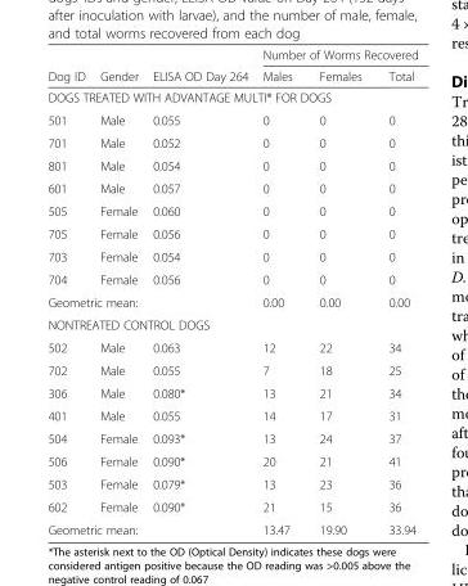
<table><thead><tr><td rowspan="2">Dog ID</td><td rowspan="2">Gender</td><td rowspan="2">ELISA OD Day 264</td><td colspan="3">Number of Worms Recovered</td></tr><tr><td>Males</td><td>Females</td><td>Total</td></tr></thead><tbody><tr><td colspan="6">DOGS TREATED WITH ADVANTAGE MULTI® FOR DOGS</td></tr><tr><td>501</td><td>Male</td><td>0.055</td><td>0</td><td>0</td><td>0</td></tr><tr><td>701</td><td>Male</td><td>0.052</td><td>0</td><td>0</td><td>0</td></tr><tr><td>801</td><td>Male</td><td>0.054</td><td>0</td><td>0</td><td>0</td></tr><tr><td>601</td><td>Male</td><td>0.057</td><td>0</td><td>0</td><td>0</td></tr><tr><td>505</td><td>Female</td><td>0.060</td><td>0</td><td>0</td><td>0</td></tr><tr><td>705</td><td>Female</td><td>0.056</td><td>0</td><td>0</td><td>0</td></tr><tr><td>703</td><td>Female</td><td>0.054</td><td>0</td><td>0</td><td>0</td></tr><tr><td>704</td><td>Female</td><td>0.056</td><td>0</td><td>0</td><td>0</td></tr><tr><td colspan="3">Geometric mean:</td><td>0.00</td><td>0.00</td><td>0.00</td></tr><tr><td colspan="6">NONTREATED CONTROL DOGS</td></tr><tr><td>502</td><td>Male</td><td>0.063</td><td>12</td><td>22</td><td>34</td></tr><tr><td>702</td><td>Male</td><td>0.055</td><td>7</td><td>18</td><td>25</td></tr><tr><td>306</td><td>Male</td><td>0.080*</td><td>13</td><td>21</td><td>34</td></tr><tr><td>401</td><td>Male</td><td>0.055</td><td>14</td><td>17</td><td>31</td></tr><tr><td>504</td><td>Female</td><td>0.093*</td><td>13</td><td>24</td><td>37</td></tr><tr><td>506</td><td>Female</td><td>0.090*</td><td>20</td><td>21</td><td>41</td></tr><tr><td>503</td><td>Female</td><td>0.079*</td><td>13</td><td>23</td><td>36</td></tr><tr><td>602</td><td>Female</td><td>0.090*</td><td>21</td><td>15</td><td>36</td></tr><tr><td colspan="3">Geometric mean:</td><td>13.47</td><td>19.90</td><td>33.94</td></tr></tbody></table>